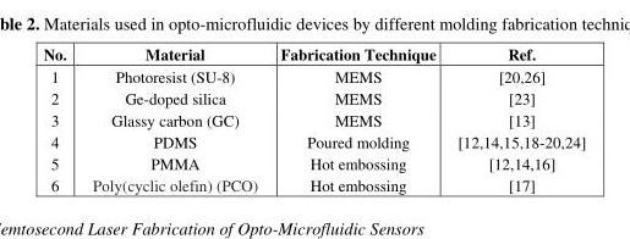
<table><thead><tr><td>No.</td><td>Material</td><td>Fabrication Technique</td><td>Ref.</td></tr></thead><tbody><tr><td>1</td><td>Photoresist (SU-8)</td><td>MEMS</td><td>[20,26]</td></tr><tr><td>2</td><td>Ge-doped silica</td><td>MEMS</td><td>[23]</td></tr><tr><td>3</td><td>Glassy carbon (GC)</td><td>MEMS</td><td>[13]</td></tr><tr><td>4</td><td>PDMS</td><td>Poured molding</td><td>[12,14,15,18-20,24]</td></tr><tr><td>5</td><td>PMMA</td><td>Hot embossing</td><td>[12,14,16]</td></tr><tr><td>6</td><td>Poly(cyclic olefin) (PCO)</td><td>Hot embossing</td><td>[17]</td></tr></tbody></table>